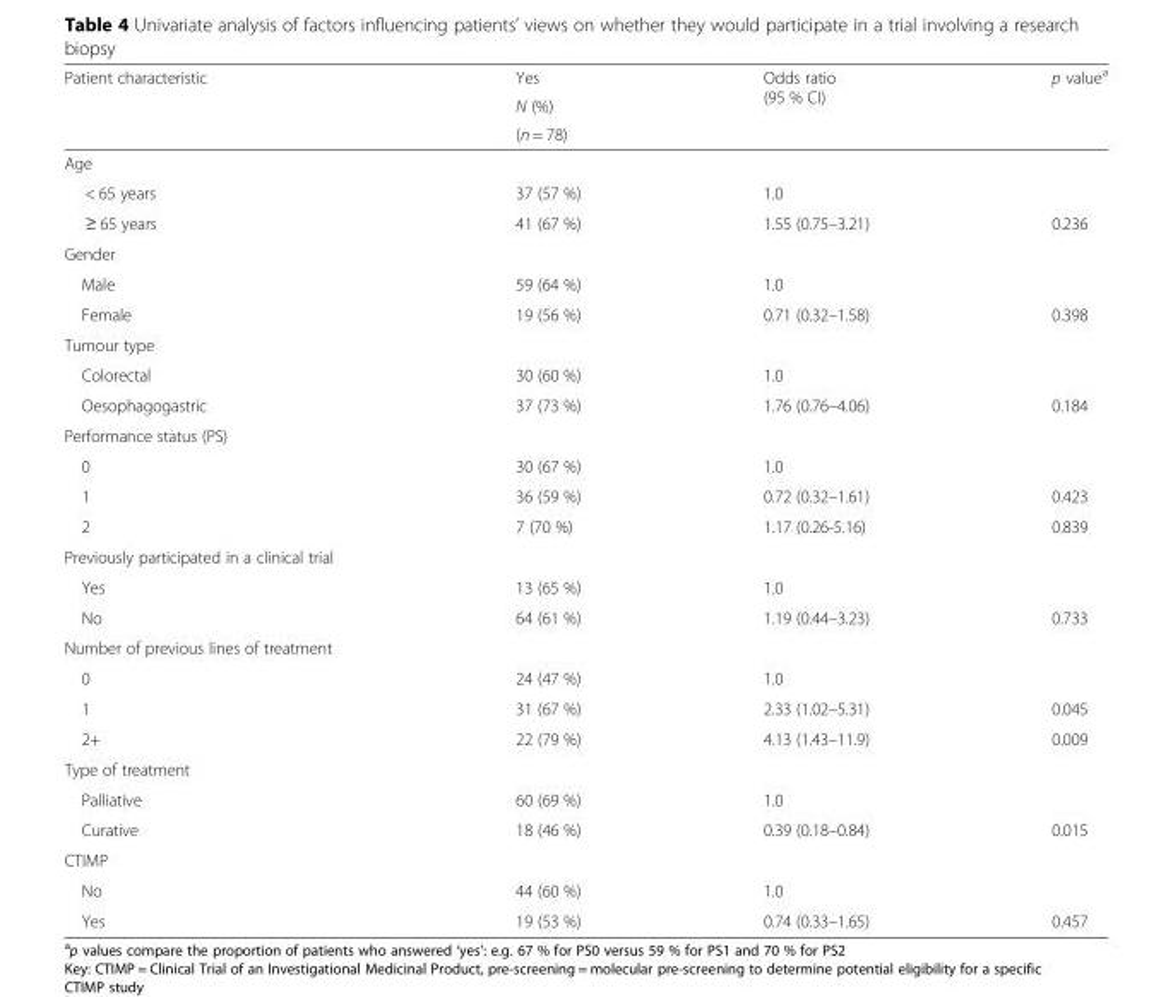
<table><thead><tr><td rowspan="3">Patient characteristic</td><td rowspan="3">Yes N (%) (n = 78)</td><td rowspan="3">Odds ratio (95 % CI)</td><td rowspan="3">p value<sup>a</sup></td></tr><tr></tr><tr></tr></thead><tbody><tr><td colspan="4">Age</td></tr><tr><td>&lt; 65 years</td><td>37 (57 %)</td><td>1.0</td><td></td></tr><tr><td>≥ 65 years</td><td>41 (67 %)</td><td>1.55 (0.75–3.21)</td><td>0.236</td></tr><tr><td colspan="4">Gender</td></tr><tr><td>Male</td><td>59 (64 %)</td><td>1.0</td><td></td></tr><tr><td>Female</td><td>19 (56 %)</td><td>0.71 (0.32–1.58)</td><td>0.398</td></tr><tr><td colspan="4">Tumour type</td></tr><tr><td>Colorectal</td><td>30 (60 %)</td><td>1.0</td><td></td></tr><tr><td>Oesophagogastric</td><td>37 (73 %)</td><td>1.76 (0.76–4.06)</td><td>0.184</td></tr><tr><td colspan="4">Performance status (PS)</td></tr><tr><td>0</td><td>30 (67 %)</td><td>1.0</td><td></td></tr><tr><td>1</td><td>36 (59 %)</td><td>0.72 (0.32–1.61)</td><td>0.423</td></tr><tr><td>2</td><td>7 (70 %)</td><td>1.17 (0.26-5.16)</td><td>0.839</td></tr><tr><td colspan="4">Previously participated in a clinical trial</td></tr><tr><td>Yes</td><td>13 (65 %)</td><td>1.0</td><td></td></tr><tr><td>No</td><td>64 (61 %)</td><td>1.19 (0.44–3.23)</td><td>0.733</td></tr><tr><td colspan="4">Number of previous lines of treatment</td></tr><tr><td>0</td><td>24 (47 %)</td><td>1.0</td><td></td></tr><tr><td>1</td><td>31 (67 %)</td><td>2.33 (1.02–5.31)</td><td>0.045</td></tr><tr><td>2+</td><td>22 (79 %)</td><td>4.13 (1.43–11.9)</td><td>0.009</td></tr><tr><td colspan="4">Type of treatment</td></tr><tr><td>Palliative</td><td>60 (69 %)</td><td>1.0</td><td></td></tr><tr><td>Curative</td><td>18 (46 %)</td><td>0.39 (0.18–0.84)</td><td>0.015</td></tr><tr><td colspan="4">CTIMP</td></tr><tr><td>No</td><td>44 (60 %)</td><td>1.0</td><td></td></tr><tr><td>Yes</td><td>19 (53 %)</td><td>0.74 (0.33–1.65)</td><td>0.457</td></tr></tbody></table>